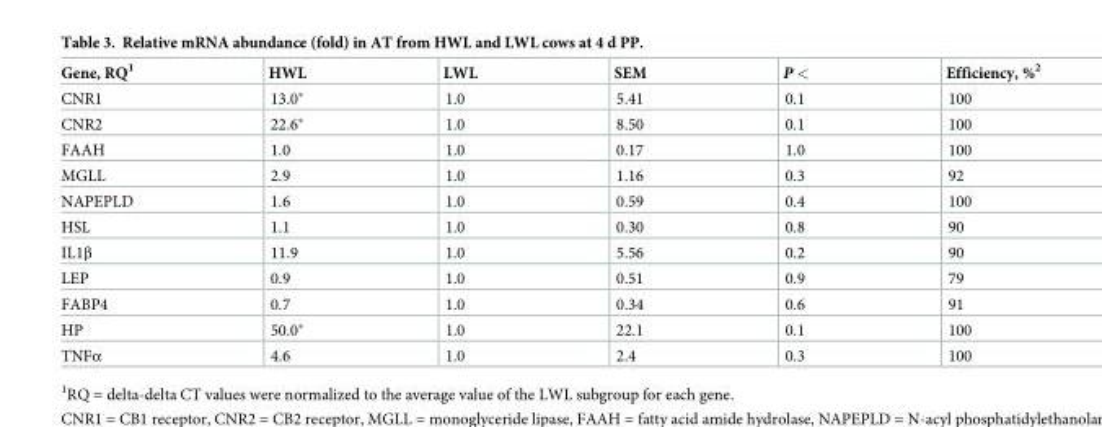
<table><thead><tr><td>Gene, RQ<sup>1</sup></td><td>HWL</td><td>LWL</td><td>SEM</td><td>P &lt;</td><td>Efficiency, %<sup>2</sup></td></tr></thead><tbody><tr><td>CNR1</td><td>13.0*</td><td>1.0</td><td>5.41</td><td>0.1</td><td>100</td></tr><tr><td>CNR2</td><td>22.6*</td><td>1.0</td><td>8.50</td><td>0.1</td><td>100</td></tr><tr><td>FAAH</td><td>1.0</td><td>1.0</td><td>0.17</td><td>1.0</td><td>100</td></tr><tr><td>MGLL</td><td>2.9</td><td>1.0</td><td>1.16</td><td>0.3</td><td>92</td></tr><tr><td>NAPEPLD</td><td>1.6</td><td>1.0</td><td>0.59</td><td>0.4</td><td>100</td></tr><tr><td>HSL</td><td>1.1</td><td>1.0</td><td>0.30</td><td>0.8</td><td>90</td></tr><tr><td>IL1β</td><td>11.9</td><td>1.0</td><td>5.56</td><td>0.2</td><td>90</td></tr><tr><td>LEP</td><td>0.9</td><td>1.0</td><td>0.51</td><td>0.9</td><td>79</td></tr><tr><td>FABP4</td><td>0.7</td><td>1.0</td><td>0.34</td><td>0.6</td><td>91</td></tr><tr><td>HP</td><td>50.0*</td><td>1.0</td><td>22.1</td><td>0.1</td><td>100</td></tr><tr><td>TNFα</td><td>4.6</td><td>1.0</td><td>2.4</td><td>0.3</td><td>100</td></tr></tbody></table>